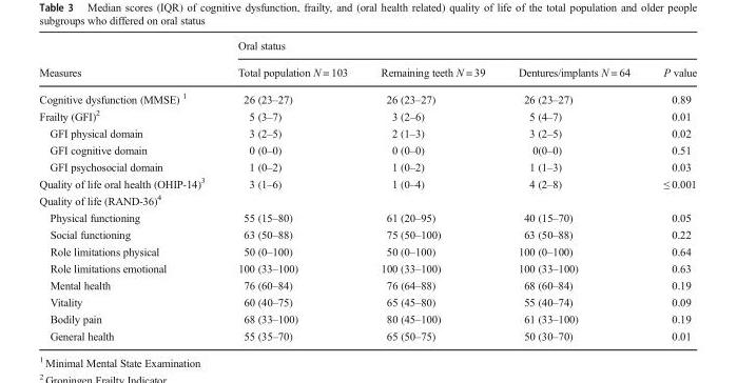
<table><thead><tr><td rowspan="2">Measures</td><td colspan="4">Oral status</td></tr><tr><td>Total population N = 103</td><td>Remaining teeth N = 39</td><td>Dentures/implants N = 64</td><td>P value</td></tr></thead><tbody><tr><td>Cognitive dysfunction (MMSE) <sup>1</sup></td><td>26 (23–27)</td><td>26 (23–27)</td><td>26 (23–27)</td><td>0.89</td></tr><tr><td>Frailty (GFI)<sup>2</sup></td><td>5 (3–7)</td><td>3 (2–6)</td><td>5 (4–7)</td><td>0.01</td></tr><tr><td>GFI physical domain</td><td>3 (2–5)</td><td>2 (1–3)</td><td>3 (2–5)</td><td>0.02</td></tr><tr><td>GFI cognitive domain</td><td>0 (0–0)</td><td>0 (0–0)</td><td>0(0–0)</td><td>0.51</td></tr><tr><td>GFI psychosocial domain</td><td>1 (0–2)</td><td>1 (0–2)</td><td>1 (1–3)</td><td>0.03</td></tr><tr><td>Quality of life oral health (OHIP-14)<sup>3</sup></td><td>3 (1–6)</td><td>1 (0–4)</td><td>4 (2–8)</td><td>≤ 0.001</td></tr><tr><td colspan="5">Quality of life (RAND-36)<sup>4</sup></td></tr><tr><td>Physical functioning</td><td>55 (15–80)</td><td>61 (20–95)</td><td>40 (15–70)</td><td>0.05</td></tr><tr><td>Social functioning</td><td>63 (50–88)</td><td>75 (50–100)</td><td>63 (50–88)</td><td>0.22</td></tr><tr><td>Role limitations physical</td><td>50 (0–100)</td><td>50 (0–100)</td><td>100 (0–100)</td><td>0.64</td></tr><tr><td>Role limitations emotional</td><td>100 (33–100)</td><td>100 (33–100)</td><td>100 (33–100)</td><td>0.63</td></tr><tr><td>Mental health</td><td>76 (60–84)</td><td>76 (64–88)</td><td>68 (60–84)</td><td>0.19</td></tr><tr><td>Vitality</td><td>60 (40–75)</td><td>65 (45–80)</td><td>55 (40–74)</td><td>0.09</td></tr><tr><td>Bodily pain</td><td>68 (33–100)</td><td>80 (45–100)</td><td>61 (33–100)</td><td>0.19</td></tr><tr><td>General health</td><td>55 (35–70)</td><td>65 (50–75)</td><td>50 (30–70)</td><td>0.01</td></tr></tbody></table>